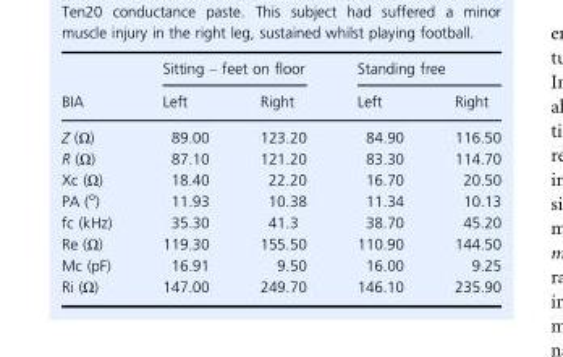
<table><thead><tr><td rowspan="2">BIA</td><td colspan="2">Sitting – feet on floor</td><td colspan="2">Standing free</td></tr><tr><td>Left</td><td>Right</td><td>Left</td><td>Right</td></tr></thead><tbody><tr><td>Z (Ω)</td><td>89.00</td><td>123.20</td><td>84.90</td><td>116.50</td></tr><tr><td>R (Ω)</td><td>87.10</td><td>121.20</td><td>83.30</td><td>114.70</td></tr><tr><td>Xc (Ω)</td><td>18.40</td><td>22.20</td><td>16.70</td><td>20.50</td></tr><tr><td>PA (<sup>o</sup>)</td><td>11.93</td><td>10.38</td><td>11.34</td><td>10.13</td></tr><tr><td>fc (kHz)</td><td>35.30</td><td>41.3</td><td>38.70</td><td>45.20</td></tr><tr><td>Re (Ω)</td><td>119.30</td><td>155.50</td><td>110.90</td><td>144.50</td></tr><tr><td>Mc (pF)</td><td>16.91</td><td>9.50</td><td>16.00</td><td>9.25</td></tr><tr><td>Ri (Ω)</td><td>147.00</td><td>249.70</td><td>146.10</td><td>235.90</td></tr></tbody></table>